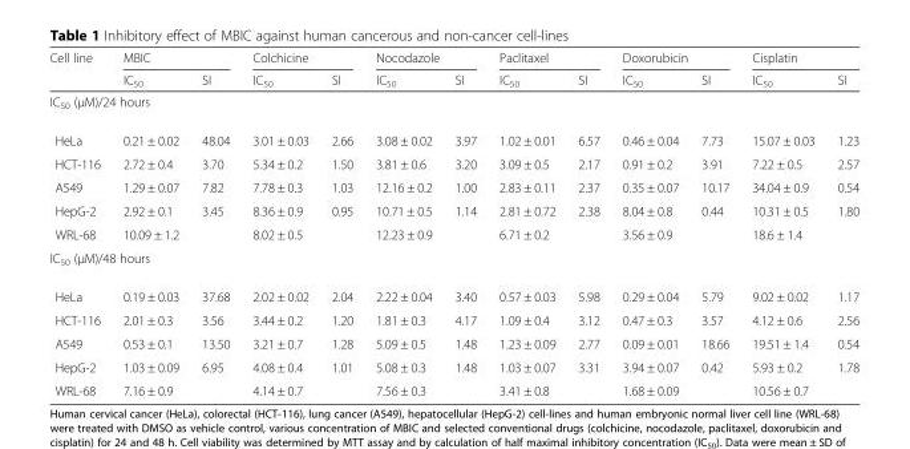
<table><thead><tr><td rowspan="2">Cell line</td><td colspan="2">MBIC</td><td colspan="2">Colchicine</td><td colspan="2">Nocodazole</td><td colspan="2">Paclitaxel</td><td colspan="2">Doxorubicin</td><td colspan="2">Cisplatin</td></tr><tr><td>IC<sub>50</sub></td><td>SI</td><td>IC<sub>50</sub></td><td>SI</td><td>IC<sub>50</sub></td><td>SI</td><td>IC<sub>50</sub></td><td>SI</td><td>IC<sub>50</sub></td><td>SI</td><td>IC<sub>50</sub></td><td>SI</td></tr></thead><tbody><tr><td colspan="13">IC<sub>50</sub> (μM)/24 hours</td></tr><tr><td>HeLa</td><td>0.21 ± 0.02</td><td>48.04</td><td>3.01 ± 0.03</td><td>2.66</td><td>3.08 ± 0.02</td><td>3.97</td><td>1.02 ± 0.01</td><td>6.57</td><td>0.46 ± 0.04</td><td>7.73</td><td>15.07 ± 0.03</td><td>1.23</td></tr><tr><td>HCT-116</td><td>2.72 ± 0.4</td><td>3.70</td><td>5.34 ± 0.2</td><td>1.50</td><td>3.81 ± 0.6</td><td>3.20</td><td>3.09 ± 0.5</td><td>2.17</td><td>0.91 ± 0.2</td><td>3.91</td><td>7.22 ± 0.5</td><td>2.57</td></tr><tr><td>A549</td><td>1.29 ± 0.07</td><td>7.82</td><td>7.78 ± 0.3</td><td>1.03</td><td>12.16 ± 0.2</td><td>1.00</td><td>2.83 ± 0.11</td><td>2.37</td><td>0.35 ± 0.07</td><td>10.17</td><td>34.04 ± 0.9</td><td>0.54</td></tr><tr><td>HepG-2</td><td>2.92 ± 0.1</td><td>3.45</td><td>8.36 ± 0.9</td><td>0.95</td><td>10.71 ± 0.5</td><td>1.14</td><td>2.81 ± 0.72</td><td>2.38</td><td>8.04 ± 0.8</td><td>0.44</td><td>10.31 ± 0.5</td><td>1.80</td></tr><tr><td>WRL-68</td><td>10.09 ± 1.2</td><td></td><td>8.02 ± 0.5</td><td></td><td>12.23 ± 0.9</td><td></td><td>6.71 ± 0.2</td><td></td><td>3.56 ± 0.9</td><td></td><td>18.6 ± 1.4</td><td></td></tr><tr><td colspan="13">IC<sub>50</sub> (μM)/48 hours</td></tr><tr><td>HeLa</td><td>0.19 ± 0.03</td><td>37.68</td><td>2.02 ± 0.02</td><td>2.04</td><td>2.22 ± 0.04</td><td>3.40</td><td>0.57 ± 0.03</td><td>5.98</td><td>0.29 ± 0.04</td><td>5.79</td><td>9.02 ± 0.02</td><td>1.17</td></tr><tr><td>HCT-116</td><td>2.01 ± 0.3</td><td>3.56</td><td>3.44 ± 0.2</td><td>1.20</td><td>1.81 ± 0.3</td><td>4.17</td><td>1.09 ± 0.4</td><td>3.12</td><td>0.47 ± 0.3</td><td>3.57</td><td>4.12 ± 0.6</td><td>2.56</td></tr><tr><td>A549</td><td>0.53 ± 0.1</td><td>13.50</td><td>3.21 ± 0.7</td><td>1.28</td><td>5.09 ± 0.5</td><td>1.48</td><td>1.23 ± 0.09</td><td>2.77</td><td>0.09 ± 0.01</td><td>18.66</td><td>19.51 ± 1.4</td><td>0.54</td></tr><tr><td>HepG-2</td><td>1.03 ± 0.09</td><td>6.95</td><td>4.08 ± 0.4</td><td>1.01</td><td>5.08 ± 0.3</td><td>1.48</td><td>1.03 ± 0.07</td><td>3.31</td><td>3.94 ± 0.07</td><td>0.42</td><td>5.93 ± 0.2</td><td>1.78</td></tr><tr><td>WRL-68</td><td>7.16 ± 0.9</td><td></td><td>4.14 ± 0.7</td><td></td><td>7.56 ± 0.3</td><td></td><td>3.41 ± 0.8</td><td></td><td>1.68 ± 0.09</td><td></td><td>10.56 ± 0.7</td><td></td></tr></tbody></table>